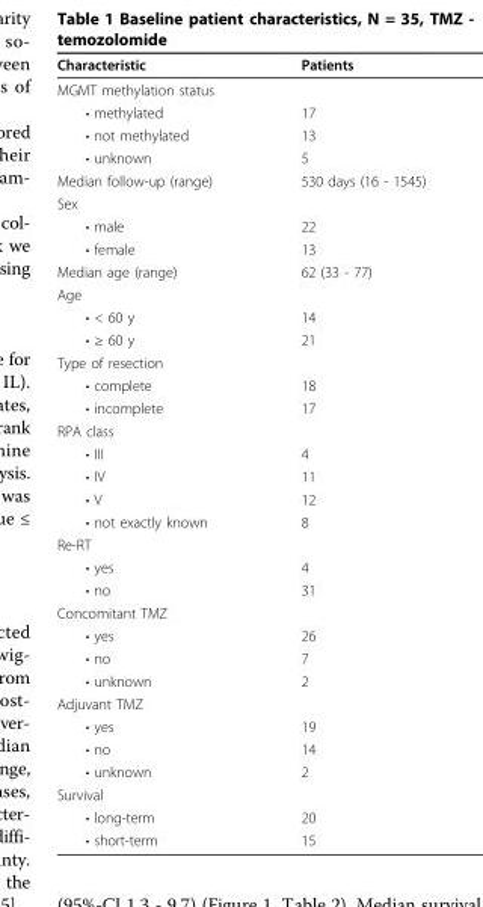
<table><thead><tr><td>Characteristic</td><td>Patients</td></tr></thead><tbody><tr><td colspan="2">MGMT methylation status</td></tr><tr><td>• methylated</td><td>17</td></tr><tr><td>• not methylated</td><td>13</td></tr><tr><td>• unknown</td><td>5</td></tr><tr><td>Median follow-up (range)</td><td>530 days (16 - 1545)</td></tr><tr><td colspan="2">Sex</td></tr><tr><td>• male</td><td>22</td></tr><tr><td>• female</td><td>13</td></tr><tr><td>Median age (range)</td><td>62 (33 - 77)</td></tr><tr><td colspan="2">Age</td></tr><tr><td>• &lt; 60 y</td><td>14</td></tr><tr><td>• ≥ 60 y</td><td>21</td></tr><tr><td colspan="2">Type of resection</td></tr><tr><td>• complete</td><td>18</td></tr><tr><td>• incomplete</td><td>17</td></tr><tr><td colspan="2">RPA class</td></tr><tr><td>• III</td><td>4</td></tr><tr><td>• IV</td><td>11</td></tr><tr><td>• V</td><td>12</td></tr><tr><td>• not exactly known</td><td>8</td></tr><tr><td colspan="2">Re-RT</td></tr><tr><td>• yes</td><td>4</td></tr><tr><td>• no</td><td>31</td></tr><tr><td colspan="2">Concomitant TMZ</td></tr><tr><td>• yes</td><td>26</td></tr><tr><td>• no</td><td>7</td></tr><tr><td>• unknown</td><td>2</td></tr><tr><td colspan="2">Adjuvant TMZ</td></tr><tr><td>• yes</td><td>19</td></tr><tr><td>• no</td><td>14</td></tr><tr><td>• unknown</td><td>2</td></tr><tr><td colspan="2">Survival</td></tr><tr><td>• long-term</td><td>20</td></tr><tr><td>• short-term</td><td>15</td></tr></tbody></table>